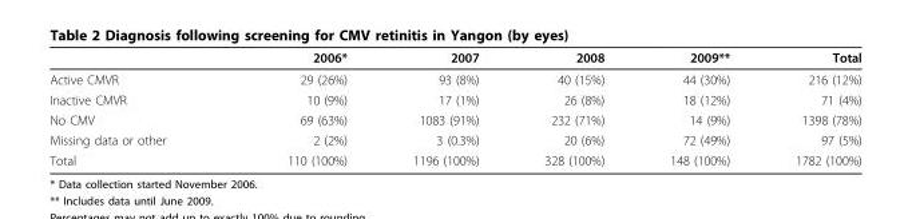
<table><thead><tr><td></td><td>2006*</td><td>2007</td><td>2008</td><td>2009**</td><td>Total</td></tr></thead><tbody><tr><td>Active CMVR</td><td>29 (26%)</td><td>93 (8%)</td><td>40 (15%)</td><td>44 (30%)</td><td>216 (12%)</td></tr><tr><td>Inactive CMVR</td><td>10 (9%)</td><td>17 (1%)</td><td>26 (8%)</td><td>18 (12%)</td><td>71 (4%)</td></tr><tr><td>No CMV</td><td>69 (63%)</td><td>1083 (91%)</td><td>232 (71%)</td><td>14 (9%)</td><td>1398 (78%)</td></tr><tr><td>Missing data or other</td><td>2 (2%)</td><td>3 (0.3%)</td><td>20 (6%)</td><td>72 (49%)</td><td>97 (5%)</td></tr><tr><td>Total</td><td>110 (100%)</td><td>1196 (100%)</td><td>328 (100%)</td><td>148 (100%)</td><td>1782 (100%)</td></tr></tbody></table>